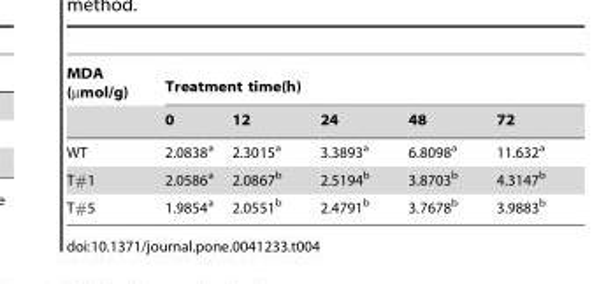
<table><thead><tr><td rowspan="2">MDA (µmol/g)</td><td colspan="5">Treatment time(h)</td></tr><tr><td>0</td><td>12</td><td>24</td><td>48</td><td>72</td></tr></thead><tbody><tr><td>WT</td><td>2.0838<sup>a</sup></td><td>2.3015<sup>a</sup></td><td>3.3893<sup>a</sup></td><td>6.8098<sup>a</sup></td><td>11.632<sup>a</sup></td></tr><tr><td>T#1</td><td>2.0586<sup>a</sup></td><td>2.0867<sup>b</sup></td><td>2.5194<sup>b</sup></td><td>3.8703<sup>b</sup></td><td>4.3147<sup>b</sup></td></tr><tr><td>T#5</td><td>1.9854<sup>a</sup></td><td>2.0551<sup>b</sup></td><td>2.4791<sup>b</sup></td><td>3.7678<sup>b</sup></td><td>3.9883<sup>b</sup></td></tr></tbody></table>